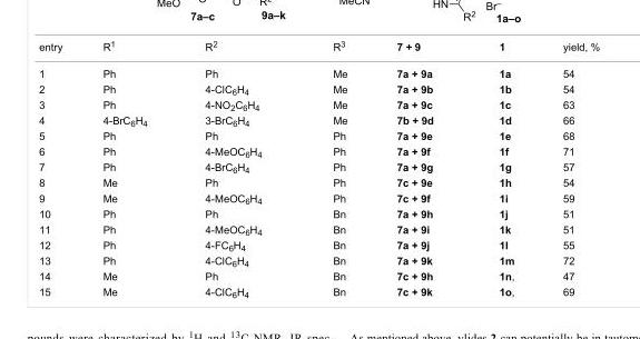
<table><tbody><tr><td>entry</td><td>R<sup>1</sup></td><td>R<sup>2</sup></td><td>R<sup>3</sup></td><td>7 + 9</td><td>1</td><td>yield, %</td></tr><tr><td>1</td><td>Ph</td><td>Ph</td><td>Me</td><td>7a + 9a</td><td>1a</td><td>54</td></tr><tr><td>2</td><td>Ph</td><td>4-ClC<sub>6</sub>H<sub>4</sub></td><td>Me</td><td>7a + 9b</td><td>1b</td><td>54</td></tr><tr><td>3</td><td>Ph</td><td>4-NO<sub>2</sub>C<sub>6</sub>H<sub>4</sub></td><td>Me</td><td>7a + 9c</td><td>1c</td><td>63</td></tr><tr><td>4</td><td>4-BrC<sub>6</sub>H<sub>4</sub></td><td>3-BrC<sub>6</sub>H<sub>4</sub></td><td>Me</td><td>7b + 9d</td><td>1d</td><td>66</td></tr><tr><td>5</td><td>Ph</td><td>Ph</td><td>Ph</td><td>7a + 9e</td><td>1e</td><td>68</td></tr><tr><td>6</td><td>Ph</td><td>4-MeOC<sub>6</sub>H<sub>4</sub></td><td>Ph</td><td>7a + 9f</td><td>1f</td><td>71</td></tr><tr><td>7</td><td>Ph</td><td>4-BrC<sub>6</sub>H<sub>4</sub></td><td>Ph</td><td>7a + 9g</td><td>1g</td><td>57</td></tr><tr><td>8</td><td>Me</td><td>Ph</td><td>Ph</td><td>7c + 9e</td><td>1h</td><td>54</td></tr><tr><td>9</td><td>Me</td><td>4-MeOC<sub>6</sub>H<sub>4</sub></td><td>Ph</td><td>7c + 9f</td><td>1i</td><td>59</td></tr><tr><td>10</td><td>Ph</td><td>Ph</td><td>Bn</td><td>7a + 9h</td><td>1j</td><td>51</td></tr><tr><td>11</td><td>Ph</td><td>4-MeOC<sub>6</sub>H<sub>4</sub></td><td>Bn</td><td>7a + 9i</td><td>1k</td><td>51</td></tr><tr><td>12</td><td>Ph</td><td>4-FC<sub>6</sub>H<sub>4</sub></td><td>Bn</td><td>7a + 9j</td><td>1l</td><td>55</td></tr><tr><td>13</td><td>Ph</td><td>4-ClC<sub>6</sub>H<sub>4</sub></td><td>Bn</td><td>7a + 9k</td><td>1m</td><td>72</td></tr><tr><td>14</td><td>Me</td><td>Ph</td><td>Bn</td><td>7c + 9h</td><td>1n,</td><td>47</td></tr><tr><td>15</td><td>Me</td><td>4-ClC<sub>6</sub>H<sub>4</sub></td><td>Bn</td><td>7c + 9k</td><td>1o,</td><td>69</td></tr></tbody></table>